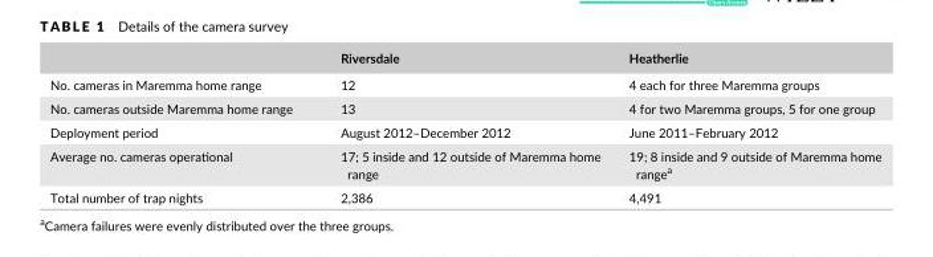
<table><thead><tr><td></td><td>Riversdale</td><td>Heatherlie</td></tr></thead><tbody><tr><td>No. cameras in Maremma home range</td><td>12</td><td>4 each for three Maremma groups</td></tr><tr><td>No. cameras outside Maremma home range</td><td>13</td><td>4 for two Maremma groups, 5 for one group</td></tr><tr><td>Deployment period</td><td>August 2012–December 2012</td><td>June 2011–February 2012</td></tr><tr><td>Average no. cameras operational</td><td>17; 5 inside and 12 outside of Maremma home range</td><td>19; 8 inside and 9 outside of Maremma home range<sup>a</sup></td></tr><tr><td>Total number of trap nights</td><td>2,386</td><td>4,491</td></tr></tbody></table>